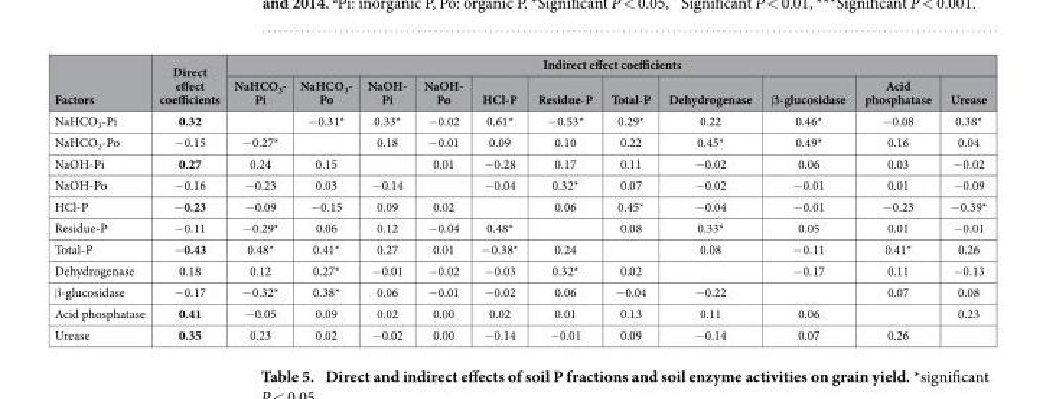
<table><thead><tr><td rowspan="2">Factors</td><td rowspan="2">Direct effect coefficients</td><td colspan="11">Indirect effect coefficients</td></tr><tr><td>NaHCO<sub>3</sub>- Pi</td><td>NaHCO<sub>3</sub>- Po</td><td>NaOH- Pi</td><td>NaOH- Po</td><td>HCl-P</td><td>Residue-P</td><td>Total-P</td><td>Dehydrogenase</td><td>β-glucosidase</td><td>Acid phosphatase</td><td>Urease</td></tr></thead><tbody><tr><td>NaHCO<sub>3</sub>-Pi</td><td>0.32</td><td></td><td>− 0.31*</td><td>0.33*</td><td>− 0.02</td><td>0.61*</td><td>− 0.53*</td><td>0.29*</td><td>0.22</td><td>0.46*</td><td>− 0.08</td><td>0.38*</td></tr><tr><td>NaHCO<sub>3</sub>-Po</td><td>− 0.15</td><td>− 0.27*</td><td></td><td>0.18</td><td>− 0.01</td><td>0.09</td><td>0.10</td><td>0.22</td><td>0.45*</td><td>0.49*</td><td>0.16</td><td>0.04</td></tr><tr><td>NaOH-Pi</td><td>0.27</td><td>0.24</td><td>0.15</td><td></td><td>0.01</td><td>− 0.28</td><td>0.17</td><td>0.11</td><td>− 0.02</td><td>0.06</td><td>0.03</td><td>− 0.02</td></tr><tr><td>NaOH-Po</td><td>− 0.16</td><td>− 0.23</td><td>0.03</td><td>− 0.14</td><td></td><td>− 0.04</td><td>0.32*</td><td>0.07</td><td>− 0.02</td><td>− 0.01</td><td>0.01</td><td>− 0.09</td></tr><tr><td>HCl-P</td><td>− 0.23</td><td>− 0.09</td><td>− 0.15</td><td>0.09</td><td>0.02</td><td></td><td>0.06</td><td>0.45*</td><td>− 0.04</td><td>− 0.01</td><td>− 0.23</td><td>− 0.39*</td></tr><tr><td>Residue-P</td><td>− 0.11</td><td>− 0.29*</td><td>0.06</td><td>0.12</td><td>− 0.04</td><td>0.48*</td><td></td><td>0.08</td><td>0.33*</td><td>0.05</td><td>0.01</td><td>− 0.01</td></tr><tr><td>Total-P</td><td>− 0.43</td><td>0.48*</td><td>0.41*</td><td>0.27</td><td>0.01</td><td>− 0.38*</td><td>0.24</td><td></td><td>0.08</td><td>− 0.11</td><td>0.41*</td><td>0.26</td></tr><tr><td>Dehydrogenase</td><td>0.18</td><td>0.12</td><td>0.27*</td><td>− 0.01</td><td>− 0.02</td><td>− 0.03</td><td>0.32*</td><td>0.02</td><td></td><td>− 0.17</td><td>0.11</td><td>− 0.13</td></tr><tr><td>β -glucosidase</td><td>− 0.17</td><td>− 0.32*</td><td>0.38*</td><td>0.06</td><td>− 0.01</td><td>− 0.02</td><td>0.06</td><td>− 0.04</td><td>− 0.22</td><td></td><td>0.07</td><td>0.08</td></tr><tr><td>Acid phosphatase</td><td>0.41</td><td>− 0.05</td><td>0.09</td><td>0.02</td><td>0.00</td><td>0.02</td><td>0.01</td><td>0.13</td><td>0.11</td><td>0.06</td><td></td><td>0.23</td></tr><tr><td>Urease</td><td>0.35</td><td>0.23</td><td>0.02</td><td>− 0.02</td><td>0.00</td><td>− 0.14</td><td>− 0.01</td><td>0.09</td><td>− 0.14</td><td>0.07</td><td>0.26</td><td></td></tr></tbody></table>